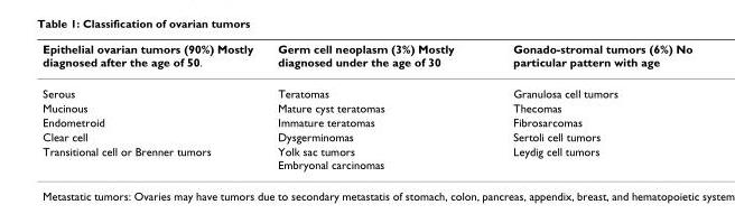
<table><thead><tr><td>Epithelial ovarian tumors (90%) Mostly diagnosed after the age of 50.</td><td>Germ cell neoplasm (3%) Mostly diagnosed under the age of 30</td><td>Gonado-stromal tumors (6%) No particular pattern with age</td></tr></thead><tbody><tr><td>Serous</td><td>Teratomas</td><td>Granulosa cell tumors</td></tr><tr><td>Mucinous</td><td>Mature cyst teratomas</td><td>Thecomas</td></tr><tr><td>Endometroid</td><td>Immature teratomas</td><td>Fibrosarcomas</td></tr><tr><td>Clear cell</td><td>Dysgerminomas</td><td>Sertoli cell tumors</td></tr><tr><td>Transitional cell or Brenner tumors</td><td>Yolk sac tumors Embryonal carcinomas</td><td>Leydig cell tumors</td></tr></tbody></table>